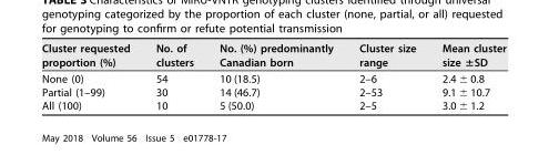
<table><thead><tr><td>Cluster requested proportion (%)</td><td>No. of clusters</td><td>No. (%) predominantly Canadian born</td><td>Cluster size range</td><td>Mean cluster size ±SD</td></tr></thead><tbody><tr><td>None (0)</td><td>54</td><td>10 (18.5)</td><td>2–6</td><td>2.4 ± 0.8</td></tr><tr><td>Partial (1–99)</td><td>30</td><td>14 (46.7)</td><td>2–53</td><td>9.1 ± 10.7</td></tr><tr><td>All (100)</td><td>10</td><td>5 (50.0)</td><td>2–5</td><td>3.0 ± 1.2</td></tr></tbody></table>